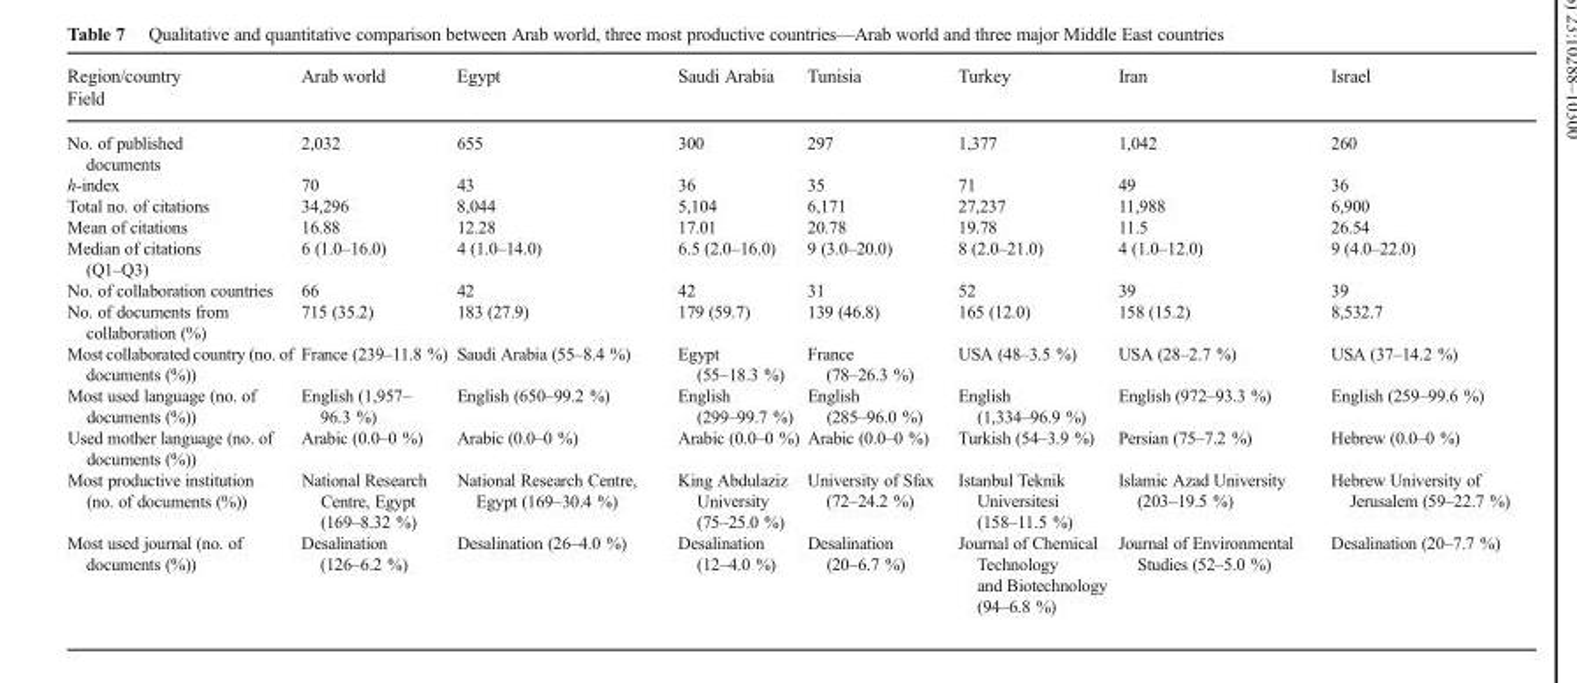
<table><thead><tr><td rowspan="2">Region/country Field</td><td rowspan="2">Arab world</td><td rowspan="2">Egypt</td><td rowspan="2">Saudi Arabia</td><td rowspan="2">Tunisia</td><td rowspan="2">Turkey</td><td rowspan="2">Iran</td><td rowspan="2">Israel</td></tr><tr></tr></thead><tbody><tr><td>No. of published documents</td><td>2,032</td><td>655</td><td>300</td><td>297</td><td>1,377</td><td>1,042</td><td>260</td></tr><tr><td>h-index</td><td>70</td><td>43</td><td>36</td><td>35</td><td>71</td><td>49</td><td>36</td></tr><tr><td>Total no. of citations</td><td>34,296</td><td>8,044</td><td>5,104</td><td>6,171</td><td>27,237</td><td>11,988</td><td>6,900</td></tr><tr><td>Mean of citations</td><td>16.88</td><td>12.28</td><td>17.01</td><td>20.78</td><td>19.78</td><td>11.5</td><td>26.54</td></tr><tr><td>Median of citations (Q1–Q3)</td><td>6 (1.0–16.0)</td><td>4 (1.0–14.0)</td><td>6.5 (2.0–16.0)</td><td>9 (3.0–20.0)</td><td>8 (2.0–21.0)</td><td>4 (1.0–12.0)</td><td>9 (4.0–22.0)</td></tr><tr><td>No. of collaboration countries</td><td>66</td><td>42</td><td>42</td><td>31</td><td>52</td><td>39</td><td>39</td></tr><tr><td>No. of documents from collaboration (%)</td><td>715 (35.2)</td><td>183 (27.9)</td><td>179 (59.7)</td><td>139 (46.8)</td><td>165 (12.0)</td><td>158 (15.2)</td><td>8,532.7</td></tr><tr><td>Most collaborated country (no. of documents (%))</td><td>France (239–11.8 %)</td><td>Saudi Arabia (55–8.4 %)</td><td>Egypt (55–18.3 %)</td><td>France (78–26.3 %)</td><td>USA (48–3.5 %)</td><td>USA (28–2.7 %)</td><td>USA (37–14.2 %)</td></tr><tr><td>Most used language (no. of documents (%))</td><td>English (1,957– 96.3 %)</td><td>English (650–99.2 %)</td><td>English (299–99.7 %)</td><td>English (285–96.0 %)</td><td>English (1,334–96.9 %)</td><td>English (972–93.3 %)</td><td>English (259–99.6 %)</td></tr><tr><td>Used mother language (no. of documents (%))</td><td>Arabic (0.0–0 %)</td><td>Arabic (0.0–0 %)</td><td>Arabic (0.0–0 %)</td><td>Arabic (0.0–0 %)</td><td>Turkish (54–3.9 %)</td><td>Persian (75–7.2 %)</td><td>Hebrew (0.0–0 %)</td></tr><tr><td>Most productive institution (no. of documents (%))</td><td>National Research Centre, Egypt (169–8.32 %)</td><td>National Research Centre, Egypt (169–30.4 %)</td><td>King Abdulaziz University (75–25.0 %)</td><td>University of Sfax (72–24.2 %)</td><td>Istanbul Teknik Universitesi (158–11.5 %)</td><td>Islamic Azad University (203–19.5 %)</td><td>Hebrew University of Jerusalem (59–22.7 %)</td></tr><tr><td>Most used journal (no. of documents (%))</td><td>Desalination (126–6.2 %)</td><td>Desalination (26–4.0 %)</td><td>Desalination (12–4.0 %)</td><td>Desalination (20–6.7 %)</td><td>Journal of Chemical Technology and Biotechnology (94–6.8 %)</td><td>Journal of Environmental Studies (52–5.0 %)</td><td>Desalination (20–7.7 %)</td></tr></tbody></table>